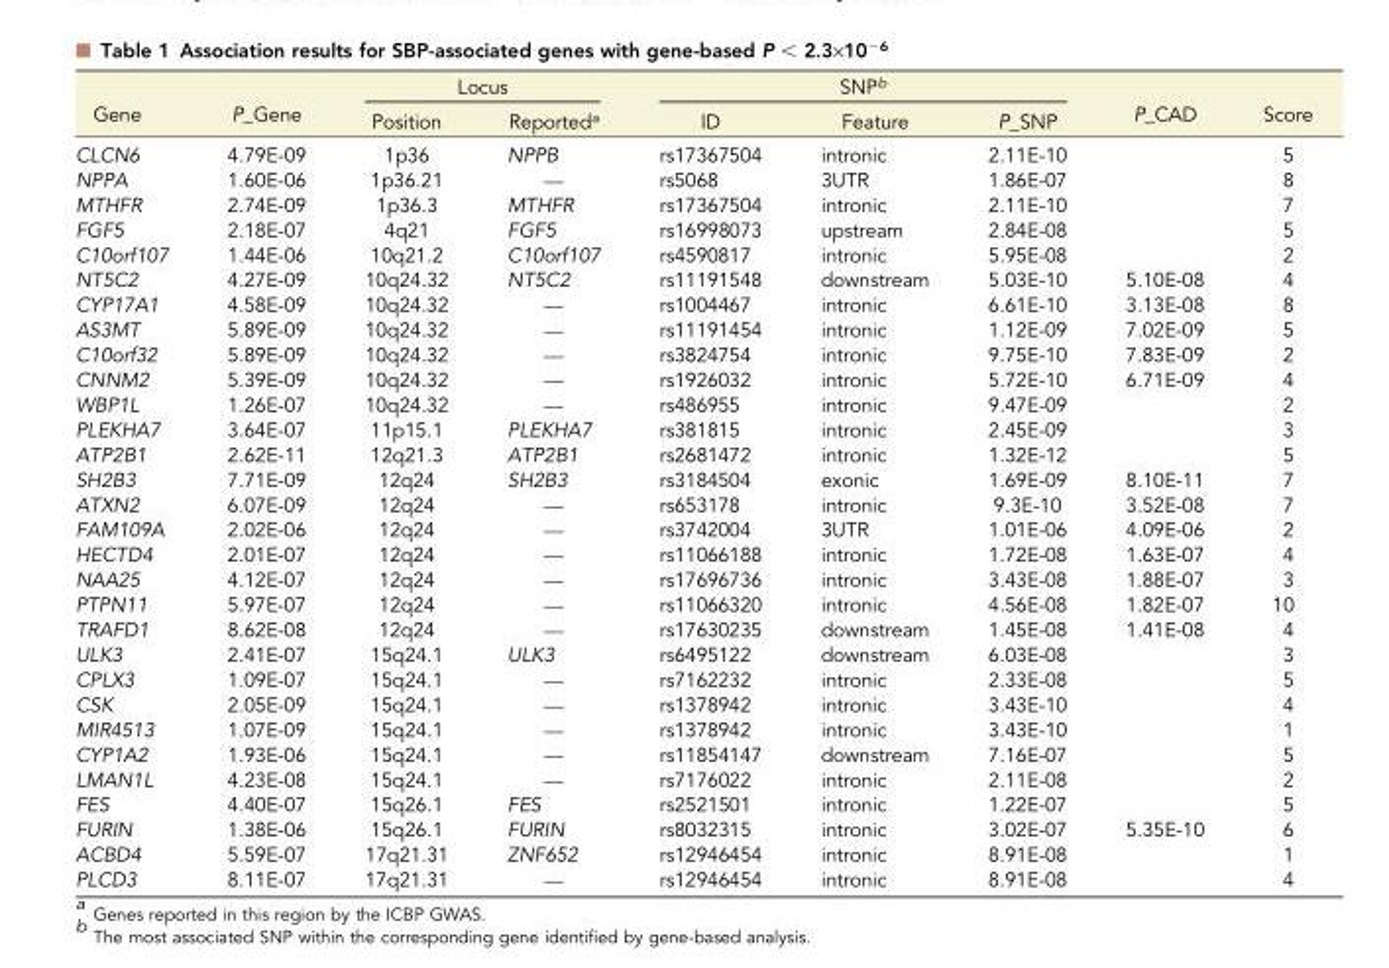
<table><thead><tr><td rowspan="2">Gene</td><td rowspan="2">P_Gene</td><td colspan="2">Locus</td><td colspan="3">SNP<sup>b</sup></td><td rowspan="2">P_CAD</td><td rowspan="2">Score</td></tr><tr><td>Position</td><td>Reported<sup>a</sup></td><td>ID</td><td>Feature</td><td>P_SNP</td></tr></thead><tbody><tr><td>CLCN6</td><td>4.79E-09</td><td>1p36</td><td>NPPB</td><td>rs17367504</td><td>intronic</td><td>2.11E-10</td><td></td><td>5</td></tr><tr><td>NPPA</td><td>1.60E-06</td><td>1p36.21</td><td>—</td><td>rs5068</td><td>3UTR</td><td>1.86E-07</td><td></td><td>8</td></tr><tr><td>MTHFR</td><td>2.74E-09</td><td>1p36.3</td><td>MTHFR</td><td>rs17367504</td><td>intronic</td><td>2.11E-10</td><td></td><td>7</td></tr><tr><td>FGF5</td><td>2.18E-07</td><td>4q21</td><td>FGF5</td><td>rs16998073</td><td>upstream</td><td>2.84E-08</td><td></td><td>5</td></tr><tr><td>C10orf107</td><td>1.44E-06</td><td>10q21.2</td><td>C10orf107</td><td>rs4590817</td><td>intronic</td><td>5.95E-08</td><td></td><td>2</td></tr><tr><td>NT5C2</td><td>4.27E-09</td><td>10q24.32</td><td>NT5C2</td><td>rs11191548</td><td>downstream</td><td>5.03E-10</td><td>5.10E-08</td><td>4</td></tr><tr><td>CYP17A1</td><td>4.58E-09</td><td>10q24.32</td><td>—</td><td>rs1004467</td><td>intronic</td><td>6.61E-10</td><td>3.13E-08</td><td>8</td></tr><tr><td>AS3MT</td><td>5.89E-09</td><td>10q24.32</td><td>—</td><td>rs11191454</td><td>intronic</td><td>1.12E-09</td><td>7.02E-09</td><td>5</td></tr><tr><td>C10orf32</td><td>5.89E-09</td><td>10q24.32</td><td>—</td><td>rs3824754</td><td>intronic</td><td>9.75E-10</td><td>7.83E-09</td><td>2</td></tr><tr><td>CNNM2</td><td>5.39E-09</td><td>10q24.32</td><td>—</td><td>rs1926032</td><td>intronic</td><td>5.72E-10</td><td>6.71E-09</td><td>4</td></tr><tr><td>WBP1L</td><td>1.26E-07</td><td>10q24.32</td><td>—</td><td>rs486955</td><td>intronic</td><td>9.47E-09</td><td></td><td>2</td></tr><tr><td>PLEKHA7</td><td>3.64E-07</td><td>11p15.1</td><td>PLEKHA7</td><td>rs381815</td><td>intronic</td><td>2.45E-09</td><td></td><td>3</td></tr><tr><td>ATP2B1</td><td>2.62E-11</td><td>12q21.3</td><td>ATP2B1</td><td>rs2681472</td><td>intronic</td><td>1.32E-12</td><td></td><td>5</td></tr><tr><td>SH2B3</td><td>7.71E-09</td><td>12q24</td><td>SH2B3</td><td>rs3184504</td><td>exonic</td><td>1.69E-09</td><td>8.10E-11</td><td>7</td></tr><tr><td>ATXN2</td><td>6.07E-09</td><td>12q24</td><td>—</td><td>rs653178</td><td>intronic</td><td>9.3E-10</td><td>3.52E-08</td><td>7</td></tr><tr><td>FAM109A</td><td>2.02E-06</td><td>12q24</td><td>—</td><td>rs3742004</td><td>3UTR</td><td>1.01E-06</td><td>4.09E-06</td><td>2</td></tr><tr><td>HECTD4</td><td>2.01E-07</td><td>12q24</td><td>—</td><td>rs11066188</td><td>intronic</td><td>1.72E-08</td><td>1.63E-07</td><td>4</td></tr><tr><td>NAA25</td><td>4.12E-07</td><td>12q24</td><td>—</td><td>rs17696736</td><td>intronic</td><td>3.43E-08</td><td>1.88E-07</td><td>3</td></tr><tr><td>PTPN11</td><td>5.97E-07</td><td>12q24</td><td>—</td><td>rs11066320</td><td>intronic</td><td>4.56E-08</td><td>1.82E-07</td><td>10</td></tr><tr><td>TRAFD1</td><td>8.62E-08</td><td>12q24</td><td>—</td><td>rs17630235</td><td>downstream</td><td>1.45E-08</td><td>1.41E-08</td><td>4</td></tr><tr><td>ULK3</td><td>2.41E-07</td><td>15q24.1</td><td>ULK3</td><td>rs6495122</td><td>downstream</td><td>6.03E-08</td><td></td><td>3</td></tr><tr><td>CPLX3</td><td>1.09E-07</td><td>15q24.1</td><td>—</td><td>rs7162232</td><td>intronic</td><td>2.33E-08</td><td></td><td>5</td></tr><tr><td>CSK</td><td>2.05E-09</td><td>15q24.1</td><td>—</td><td>rs1378942</td><td>intronic</td><td>3.43E-10</td><td></td><td>4</td></tr><tr><td>MIR4513</td><td>1.07E-09</td><td>15q24.1</td><td>—</td><td>rs1378942</td><td>intronic</td><td>3.43E-10</td><td></td><td>1</td></tr><tr><td>CYP1A2</td><td>1.93E-06</td><td>15q24.1</td><td>—</td><td>rs11854147</td><td>downstream</td><td>7.16E-07</td><td></td><td>5</td></tr><tr><td>LMAN1L</td><td>4.23E-08</td><td>15q24.1</td><td>—</td><td>rs7176022</td><td>intronic</td><td>2.11E-08</td><td></td><td>2</td></tr><tr><td>FES</td><td>4.40E-07</td><td>15q26.1</td><td>FES</td><td>rs2521501</td><td>intronic</td><td>1.22E-07</td><td></td><td>5</td></tr><tr><td>FURIN</td><td>1.38E-06</td><td>15q26.1</td><td>FURIN</td><td>rs8032315</td><td>intronic</td><td>3.02E-07</td><td>5.35E-10</td><td>6</td></tr><tr><td>ACBD4</td><td>5.59E-07</td><td>17q21.31</td><td>ZNF652</td><td>rs12946454</td><td>intronic</td><td>8.91E-08</td><td></td><td>1</td></tr><tr><td>PLCD3</td><td>8.11E-07</td><td>17q21.31</td><td>—</td><td>rs12946454</td><td>intronic</td><td>8.91E-08</td><td></td><td>4</td></tr></tbody></table>